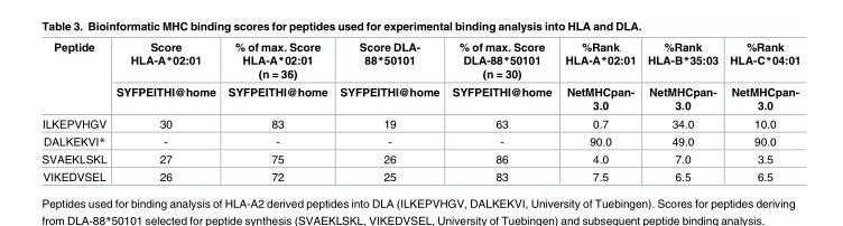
<table><thead><tr><td rowspan="2">Peptide</td><td rowspan="2">Score HLA-A*02:01 SYFPEITHI@home</td><td rowspan="2">% of max. Score HLA-A*02:01 (n = 36) SYFPEITHI@home</td><td rowspan="2">Score DLA- 88*50101 SYFPEITHI@home</td><td rowspan="2">% of max. Score DLA-88*50101 (n = 30) SYFPEITHI@home</td><td rowspan="2">%Rank HLA-A*02:01 NetMHCpan- 3.0</td><td rowspan="2">%Rank HLA-B*35:03 NetMHCpan- 3.0</td><td rowspan="2">%Rank HLA-C*04:01 NetMHCpan- 3.0</td></tr><tr></tr></thead><tbody><tr><td>ILKEPVHGV</td><td>30</td><td>83</td><td>19</td><td>63</td><td>0.7</td><td>34.0</td><td>10.0</td></tr><tr><td>DALKEKVI*</td><td>-</td><td>-</td><td>-</td><td>-</td><td>90.0</td><td>49.0</td><td>90.0</td></tr><tr><td>SVAEKLSKL</td><td>27</td><td>75</td><td>26</td><td>86</td><td>4.0</td><td>7.0</td><td>3.5</td></tr><tr><td>VIKEDVSEL</td><td>26</td><td>72</td><td>25</td><td>83</td><td>7.5</td><td>6.5</td><td>6.5</td></tr></tbody></table>